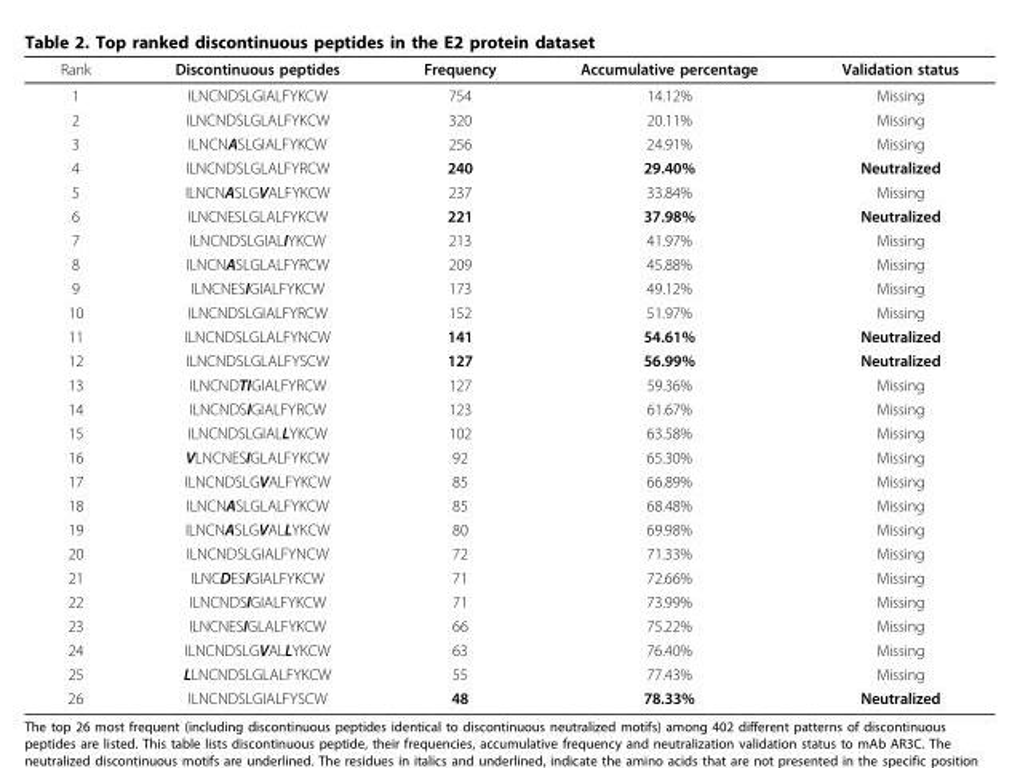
<table><thead><tr><td>Rank</td><td>Discontinuous peptides</td><td>Frequency</td><td>Accumulative percentage</td><td>Validation status</td></tr></thead><tbody><tr><td>1</td><td>ILNCNDSLGIALFYKCW</td><td>754</td><td>14.12%</td><td>Missing</td></tr><tr><td>2</td><td>ILNCNDSLGLALFYKCW</td><td>320</td><td>20.11%</td><td>Missing</td></tr><tr><td>3</td><td>ILNCNASLGIALFYKCW</td><td>256</td><td>24.91%</td><td>Missing</td></tr><tr><td>4</td><td>ILNCNDSLGLALFYRCW</td><td>240</td><td>29.40%</td><td>Neutralized</td></tr><tr><td>5</td><td>ILNCNASLGVALFYKCW</td><td>237</td><td>33.84%</td><td>Missing</td></tr><tr><td>6</td><td>ILNCNESLGLALFYKCW</td><td>221</td><td>37.98%</td><td>Neutralized</td></tr><tr><td>7</td><td>ILNCNDSLGIALIYKCW</td><td>213</td><td>41.97%</td><td>Missing</td></tr><tr><td>8</td><td>ILNCNASLGLALFYRCW</td><td>209</td><td>45.88%</td><td>Missing</td></tr><tr><td>9</td><td>ILNCNESIGIALFYKCW</td><td>173</td><td>49.12%</td><td>Missing</td></tr><tr><td>10</td><td>ILNCNDSLGIALFYRCW</td><td>152</td><td>51.97%</td><td>Missing</td></tr><tr><td>11</td><td>ILNCNDSLGLALFYNCW</td><td>141</td><td>54.61%</td><td>Neutralized</td></tr><tr><td>12</td><td>ILNCNDSLGLALFYSCW</td><td>127</td><td>56.99%</td><td>Neutralized</td></tr><tr><td>13</td><td>ILNCNDTIGIALFYRCW</td><td>127</td><td>59.36%</td><td>Missing</td></tr><tr><td>14</td><td>ILNCNDSIGIALFYRCW</td><td>123</td><td>61.67%</td><td>Missing</td></tr><tr><td>15</td><td>ILNCNDSLGIALLYKCW</td><td>102</td><td>63.58%</td><td>Missing</td></tr><tr><td>16</td><td>VLNCNESIGLALFYKCW</td><td>92</td><td>65.30%</td><td>Missing</td></tr><tr><td>17</td><td>ILNCNDSLGVALFYKCW</td><td>85</td><td>66.89%</td><td>Missing</td></tr><tr><td>18</td><td>ILNCNASLGLALFYKCW</td><td>85</td><td>68.48%</td><td>Missing</td></tr><tr><td>19</td><td>ILNCNASLGVALLYKCW</td><td>80</td><td>69.98%</td><td>Missing</td></tr><tr><td>20</td><td>ILNCNDSLGIALFYNCW</td><td>72</td><td>71.33%</td><td>Missing</td></tr><tr><td>21</td><td>ILNCDESIGIALFYKCW</td><td>71</td><td>72.66%</td><td>Missing</td></tr><tr><td>22</td><td>ILNCNDSIGIALFYKCW</td><td>71</td><td>73.99%</td><td>Missing</td></tr><tr><td>23</td><td>ILNCNESIGLALFYKCW</td><td>66</td><td>75.22%</td><td>Missing</td></tr><tr><td>24</td><td>ILNCNDSLGVALLYKCW</td><td>63</td><td>76.40%</td><td>Missing</td></tr><tr><td>25</td><td>LLNCNDSLGLALFYKCW</td><td>55</td><td>77.43%</td><td>Missing</td></tr><tr><td>26</td><td>ILNCNDSLGIALFYSCW</td><td>48</td><td>78.33%</td><td>Neutralized</td></tr></tbody></table>